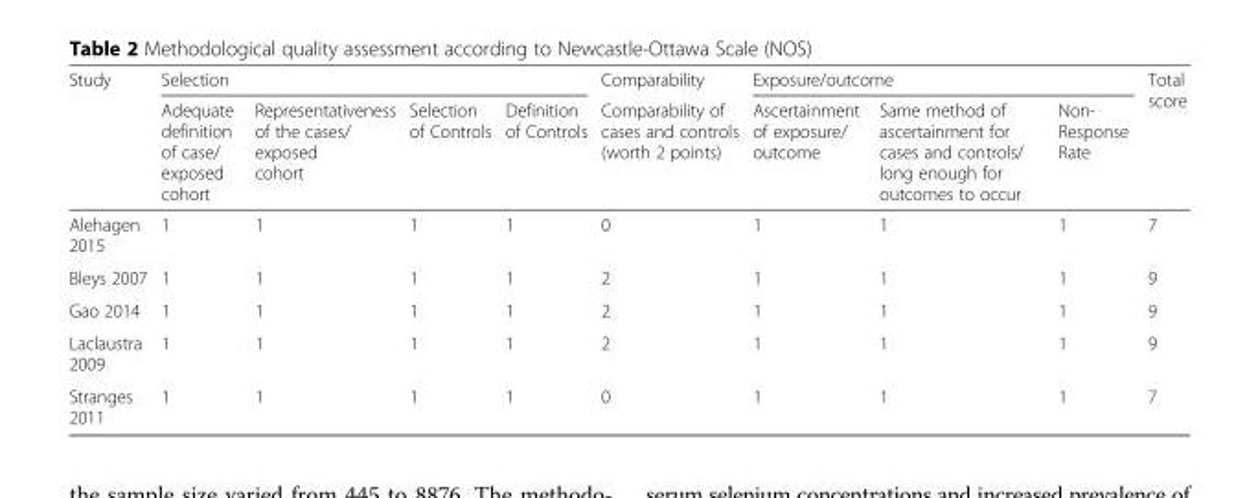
<table><thead><tr><td rowspan="2">Study</td><td colspan="4">Selection</td><td rowspan="2">Comparability Comparability of cases and controls (worth 2 points)</td><td colspan="3">Exposure/outcome</td><td rowspan="2">Total score</td></tr><tr><td>Adequate definition of case/ exposed cohort</td><td>Representativeness of the cases/ exposed cohort</td><td>Selection of Controls</td><td>Definition of Controls</td><td>Ascertainment of exposure/ outcome</td><td>Same method of ascertainment for cases and controls/ long enough for outcomes to occur</td><td>Non- Response Rate</td></tr></thead><tbody><tr><td>Alehagen 2015</td><td>1</td><td>1</td><td>1</td><td>1</td><td>0</td><td>1</td><td>1</td><td>1</td><td>7</td></tr><tr><td>Bleys 2007</td><td>1</td><td>1</td><td>1</td><td>1</td><td>2</td><td>1</td><td>1</td><td>1</td><td>9</td></tr><tr><td>Gao 2014</td><td>1</td><td>1</td><td>1</td><td>1</td><td>2</td><td>1</td><td>1</td><td>1</td><td>9</td></tr><tr><td>Laclaustra 2009</td><td>1</td><td>1</td><td>1</td><td>1</td><td>2</td><td>1</td><td>1</td><td>1</td><td>9</td></tr><tr><td>Stranges 2011</td><td>1</td><td>1</td><td>1</td><td>1</td><td>0</td><td>1</td><td>1</td><td>1</td><td>7</td></tr></tbody></table>